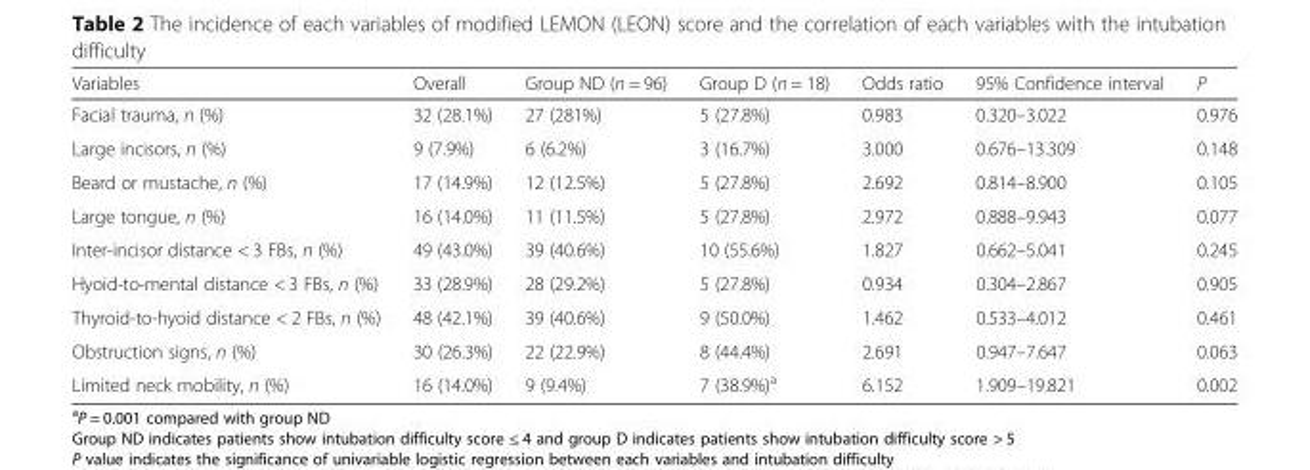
<table><thead><tr><td>Variables</td><td>Overall</td><td>Group ND (n = 96)</td><td>Group D (n = 18)</td><td>Odds ratio</td><td>95% Confidence interval</td><td>P</td></tr></thead><tbody><tr><td>Facial trauma, n (%)</td><td>32 (28.1%)</td><td>27 (281%)</td><td>5 (27.8%)</td><td>0.983</td><td>0.320–3.022</td><td>0.976</td></tr><tr><td>Large incisors, n (%)</td><td>9 (7.9%)</td><td>6 (6.2%)</td><td>3 (16.7%)</td><td>3.000</td><td>0.676–13.309</td><td>0.148</td></tr><tr><td>Beard or mustache, n (%)</td><td>17 (14.9%)</td><td>12 (12.5%)</td><td>5 (27.8%)</td><td>2.692</td><td>0.814–8.900</td><td>0.105</td></tr><tr><td>Large tongue, n (%)</td><td>16 (14.0%)</td><td>11 (11.5%)</td><td>5 (27.8%)</td><td>2.972</td><td>0.888–9.943</td><td>0.077</td></tr><tr><td>Inter-incisor distance &lt; 3 FBs, n (%)</td><td>49 (43.0%)</td><td>39 (40.6%)</td><td>10 (55.6%)</td><td>1.827</td><td>0.662–5.041</td><td>0.245</td></tr><tr><td>Hyoid-to-mental distance &lt; 3 FBs, n (%)</td><td>33 (28.9%)</td><td>28 (29.2%)</td><td>5 (27.8%)</td><td>0.934</td><td>0.304–2.867</td><td>0.905</td></tr><tr><td>Thyroid-to-hyoid distance &lt; 2 FBs, n (%)</td><td>48 (42.1%)</td><td>39 (40.6%)</td><td>9 (50.0%)</td><td>1.462</td><td>0.533–4.012</td><td>0.461</td></tr><tr><td>Obstruction signs, n (%)</td><td>30 (26.3%)</td><td>22 (22.9%)</td><td>8 (44.4%)</td><td>2.691</td><td>0.947–7.647</td><td>0.063</td></tr><tr><td>Limited neck mobility, n (%)</td><td>16 (14.0%)</td><td>9 (9.4%)</td><td>7 (38.9%)<sup>a</sup></td><td>6.152</td><td>1.909–19.821</td><td>0.002</td></tr></tbody></table>